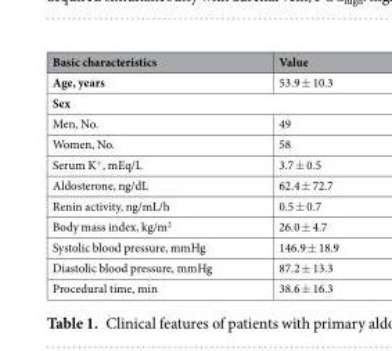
<table><thead><tr><td>Basic characteristics</td><td>Value</td></tr></thead><tbody><tr><td>Age, years</td><td>53.9 ± 10.3</td></tr><tr><td colspan="2">Sex</td></tr><tr><td>Men, No.</td><td>49</td></tr><tr><td>Women, No.</td><td>58</td></tr><tr><td>Serum K<sup>+</sup>, mEq/L</td><td>3.7 ± 0.5</td></tr><tr><td>Aldosterone, ng/dL</td><td>62.4 ± 72.7</td></tr><tr><td>Renin activity, ng/mL/h</td><td>0.5 ± 0.7</td></tr><tr><td>Body mass index, kg/m<sup>2</sup></td><td>26.0 ± 4.7</td></tr><tr><td>Systolic blood pressure, mmHg</td><td>146.9 ± 18.9</td></tr><tr><td>Diastolic blood pressure, mmHg</td><td>87.2 ± 13.3</td></tr><tr><td>Procedural time, min</td><td>38.6 ± 16.3</td></tr></tbody></table>